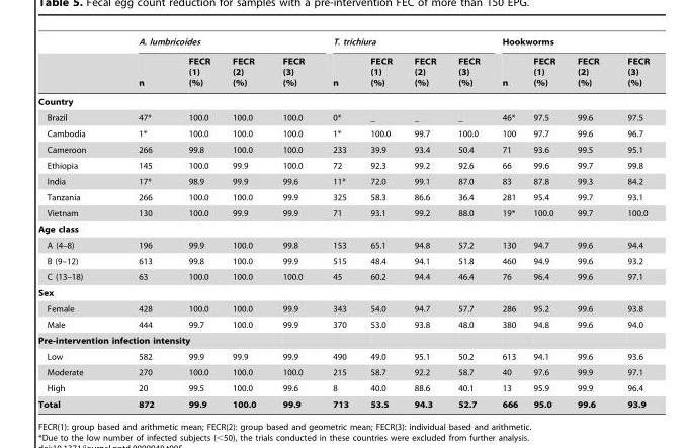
<table><thead><tr><td rowspan="2"></td><td colspan="4">A. lumbricoides</td><td colspan="4">T. trichiura</td><td colspan="4">Hookworms</td></tr><tr><td>n</td><td>FECR (1) (%)</td><td>FECR (2) (%)</td><td>FECR (3) (%)</td><td>n</td><td>FECR (1) (%)</td><td>FECR (2) (%)</td><td>FECR (3) (%)</td><td>n</td><td>FECR (1) (%)</td><td>FECR (2) (%)</td><td>FECR (3) (%)</td></tr></thead><tbody><tr><td colspan="13">Country</td></tr><tr><td>Brazil</td><td>47*</td><td>100.0</td><td>100.0</td><td>100.0</td><td>0*</td><td>_</td><td>_</td><td>_</td><td>46*</td><td>97.5</td><td>99.6</td><td>97.5</td></tr><tr><td>Cambodia</td><td>1*</td><td>100.0</td><td>100.0</td><td>100.0</td><td>1*</td><td>100.0</td><td>99.7</td><td>100.0</td><td>100</td><td>97.7</td><td>99.6</td><td>96.7</td></tr><tr><td>Cameroon</td><td>266</td><td>99.8</td><td>100.0</td><td>100.0</td><td>233</td><td>39.9</td><td>93.4</td><td>50.4</td><td>71</td><td>93.6</td><td>99.5</td><td>95.1</td></tr><tr><td>Ethiopia</td><td>145</td><td>100.0</td><td>99.9</td><td>100.0</td><td>72</td><td>92.3</td><td>99.2</td><td>92.6</td><td>66</td><td>99.6</td><td>99.7</td><td>99.8</td></tr><tr><td>India</td><td>17*</td><td>98.9</td><td>99.9</td><td>99.6</td><td>11*</td><td>72.0</td><td>99.1</td><td>87.0</td><td>83</td><td>87.8</td><td>99.3</td><td>84.2</td></tr><tr><td>Tanzania</td><td>266</td><td>100.0</td><td>100.0</td><td>99.9</td><td>325</td><td>58.3</td><td>86.6</td><td>36.4</td><td>281</td><td>95.4</td><td>99.7</td><td>93.1</td></tr><tr><td>Vietnam</td><td>130</td><td>100.0</td><td>99.9</td><td>99.9</td><td>71</td><td>93.1</td><td>99.2</td><td>88.0</td><td>19*</td><td>100.0</td><td>99.7</td><td>100.0</td></tr><tr><td colspan="13">Age class</td></tr><tr><td>A (4–8)</td><td>196</td><td>99.9</td><td>100.0</td><td>99.8</td><td>153</td><td>65.1</td><td>94.8</td><td>57.2</td><td>130</td><td>94.7</td><td>99.6</td><td>94.4</td></tr><tr><td>B (9–12)</td><td>613</td><td>99.8</td><td>100.0</td><td>99.9</td><td>515</td><td>48.4</td><td>94.1</td><td>51.8</td><td>460</td><td>94.9</td><td>99.6</td><td>93.2</td></tr><tr><td>C (13–18)</td><td>63</td><td>100.0</td><td>100.0</td><td>100.0</td><td>45</td><td>60.2</td><td>94.4</td><td>46.4</td><td>76</td><td>96.4</td><td>99.6</td><td>97.1</td></tr><tr><td colspan="13">Sex</td></tr><tr><td>Female</td><td>428</td><td>100.0</td><td>100.0</td><td>99.9</td><td>343</td><td>54.0</td><td>94.7</td><td>57.7</td><td>286</td><td>95.2</td><td>99.6</td><td>93.8</td></tr><tr><td>Male</td><td>444</td><td>99.7</td><td>100.0</td><td>99.9</td><td>370</td><td>53.0</td><td>93.8</td><td>48.0</td><td>380</td><td>94.8</td><td>99.6</td><td>94.0</td></tr><tr><td colspan="13">Pre-intervention infection intensity</td></tr><tr><td>Low</td><td>582</td><td>99.9</td><td>99.9</td><td>99.9</td><td>490</td><td>49.0</td><td>95.1</td><td>50.2</td><td>613</td><td>94.1</td><td>99.6</td><td>93.6</td></tr><tr><td>Moderate</td><td>270</td><td>100.0</td><td>100.0</td><td>100.0</td><td>215</td><td>58.7</td><td>92.2</td><td>58.7</td><td>40</td><td>97.6</td><td>99.9</td><td>97.1</td></tr><tr><td>High</td><td>20</td><td>99.5</td><td>100.0</td><td>99.6</td><td>8</td><td>40.0</td><td>88.6</td><td>40.1</td><td>13</td><td>95.9</td><td>99.9</td><td>96.4</td></tr><tr><td>Total</td><td>872</td><td>99.9</td><td>100.0</td><td>99.9</td><td>713</td><td>53.5</td><td>94.3</td><td>52.7</td><td>666</td><td>95.0</td><td>99.6</td><td>93.9</td></tr></tbody></table>